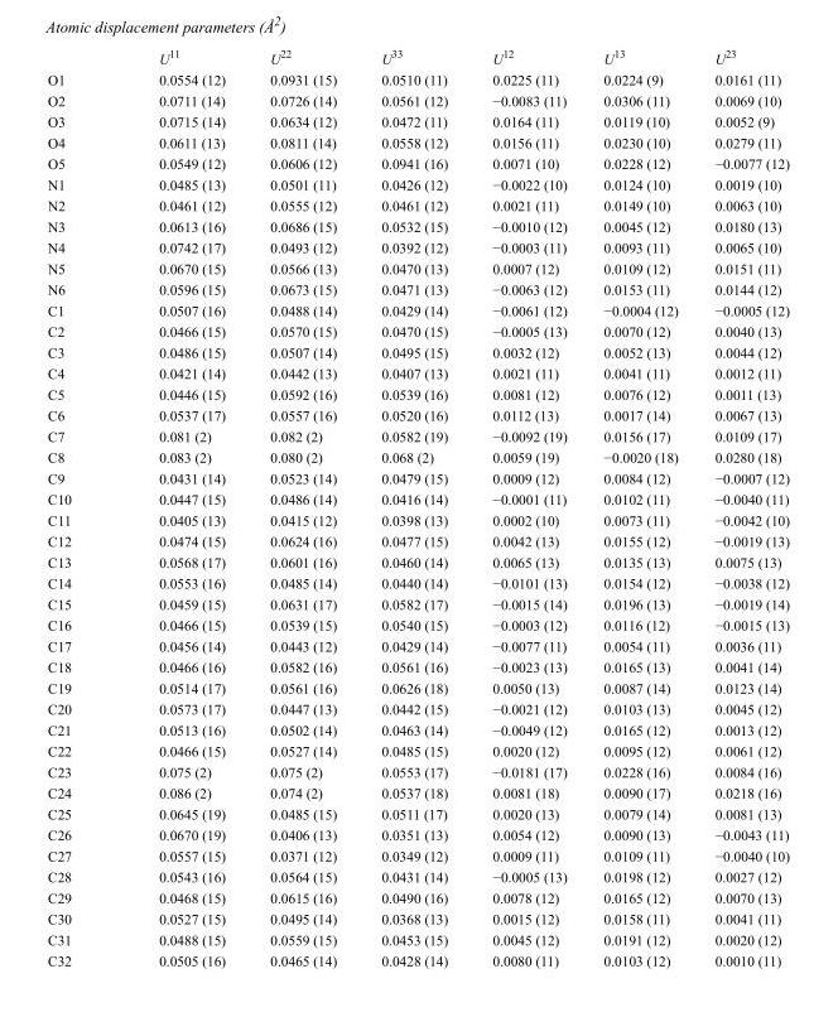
<table><thead><tr><td></td><td>U<sup>11</sup></td><td>U<sup>22</sup></td><td>U<sup>33</sup></td><td>U<sup>12</sup></td><td>U<sup>13</sup></td><td>U<sup>23</sup></td></tr></thead><tbody><tr><td>O1</td><td>0.0554 (12)</td><td>0.0931 (15)</td><td>0.0510 (11)</td><td>0.0225 (11)</td><td>0.0224 (9)</td><td>0.0161 (11)</td></tr><tr><td>O2</td><td>0.0711 (14)</td><td>0.0726 (14)</td><td>0.0561 (12)</td><td>−0.0083 (11)</td><td>0.0306 (11)</td><td>0.0069 (10)</td></tr><tr><td>O3</td><td>0.0715 (14)</td><td>0.0634 (12)</td><td>0.0472 (11)</td><td>0.0164 (11)</td><td>0.0119 (10)</td><td>0.0052 (9)</td></tr><tr><td>O4</td><td>0.0611 (13)</td><td>0.0811 (14)</td><td>0.0558 (12)</td><td>0.0156 (11)</td><td>0.0230 (10)</td><td>0.0279 (11)</td></tr><tr><td>O5</td><td>0.0549 (12)</td><td>0.0606 (12)</td><td>0.0941 (16)</td><td>0.0071 (10)</td><td>0.0228 (12)</td><td>−0.0077 (12)</td></tr><tr><td>N1</td><td>0.0485 (13)</td><td>0.0501 (11)</td><td>0.0426 (12)</td><td>−0.0022 (10)</td><td>0.0124 (10)</td><td>0.0019 (10)</td></tr><tr><td>N2</td><td>0.0461 (12)</td><td>0.0555 (12)</td><td>0.0461 (12)</td><td>0.0021 (11)</td><td>0.0149 (10)</td><td>0.0063 (10)</td></tr><tr><td>N3</td><td>0.0613 (16)</td><td>0.0686 (15)</td><td>0.0532 (15)</td><td>−0.0010 (12)</td><td>0.0045 (12)</td><td>0.0180 (13)</td></tr><tr><td>N4</td><td>0.0742 (17)</td><td>0.0493 (12)</td><td>0.0392 (12)</td><td>−0.0003 (11)</td><td>0.0093 (11)</td><td>0.0065 (10)</td></tr><tr><td>N5</td><td>0.0670 (15)</td><td>0.0566 (13)</td><td>0.0470 (13)</td><td>0.0007 (12)</td><td>0.0109 (12)</td><td>0.0151 (11)</td></tr><tr><td>N6</td><td>0.0596 (15)</td><td>0.0673 (15)</td><td>0.0471 (13)</td><td>−0.0063 (12)</td><td>0.0153 (11)</td><td>0.0144 (12)</td></tr><tr><td>C1</td><td>0.0507 (16)</td><td>0.0488 (14)</td><td>0.0429 (14)</td><td>−0.0061 (12)</td><td>−0.0004 (12)</td><td>−0.0005 (12)</td></tr><tr><td>C2</td><td>0.0466 (15)</td><td>0.0570 (15)</td><td>0.0470 (15)</td><td>−0.0005 (13)</td><td>0.0070 (12)</td><td>0.0040 (13)</td></tr><tr><td>C3</td><td>0.0486 (15)</td><td>0.0507 (14)</td><td>0.0495 (15)</td><td>0.0032 (12)</td><td>0.0052 (13)</td><td>0.0044 (12)</td></tr><tr><td>C4</td><td>0.0421 (14)</td><td>0.0442 (13)</td><td>0.0407 (13)</td><td>0.0021 (11)</td><td>0.0041 (11)</td><td>0.0012 (11)</td></tr><tr><td>C5</td><td>0.0446 (15)</td><td>0.0592 (16)</td><td>0.0539 (16)</td><td>0.0081 (12)</td><td>0.0076 (12)</td><td>0.0011 (13)</td></tr><tr><td>C6</td><td>0.0537 (17)</td><td>0.0557 (16)</td><td>0.0520 (16)</td><td>0.0112 (13)</td><td>0.0017 (14)</td><td>0.0067 (13)</td></tr><tr><td>C7</td><td>0.081 (2)</td><td>0.082 (2)</td><td>0.0582 (19)</td><td>−0.0092 (19)</td><td>0.0156 (17)</td><td>0.0109 (17)</td></tr><tr><td>C8</td><td>0.083 (2)</td><td>0.080 (2)</td><td>0.068 (2)</td><td>0.0059 (19)</td><td>−0.0020 (18)</td><td>0.0280 (18)</td></tr><tr><td>C9</td><td>0.0431 (14)</td><td>0.0523 (14)</td><td>0.0479 (15)</td><td>0.0009 (12)</td><td>0.0084 (12)</td><td>−0.0007 (12)</td></tr><tr><td>C10</td><td>0.0447 (15)</td><td>0.0486 (14)</td><td>0.0416 (14)</td><td>−0.0001 (11)</td><td>0.0102 (11)</td><td>−0.0040 (11)</td></tr><tr><td>C11</td><td>0.0405 (13)</td><td>0.0415 (12)</td><td>0.0398 (13)</td><td>0.0002 (10)</td><td>0.0073 (11)</td><td>−0.0042 (10)</td></tr><tr><td>C12</td><td>0.0474 (15)</td><td>0.0624 (16)</td><td>0.0477 (15)</td><td>0.0042 (13)</td><td>0.0155 (12)</td><td>−0.0019 (13)</td></tr><tr><td>C13</td><td>0.0568 (17)</td><td>0.0601 (16)</td><td>0.0460 (14)</td><td>0.0065 (13)</td><td>0.0135 (13)</td><td>0.0075 (13)</td></tr><tr><td>C14</td><td>0.0553 (16)</td><td>0.0485 (14)</td><td>0.0440 (14)</td><td>−0.0101 (13)</td><td>0.0154 (12)</td><td>−0.0038 (12)</td></tr><tr><td>C15</td><td>0.0459 (15)</td><td>0.0631 (17)</td><td>0.0582 (17)</td><td>−0.0015 (14)</td><td>0.0196 (13)</td><td>−0.0019 (14)</td></tr><tr><td>C16</td><td>0.0466 (15)</td><td>0.0539 (15)</td><td>0.0540 (15)</td><td>−0.0003 (12)</td><td>0.0116 (12)</td><td>−0.0015 (13)</td></tr><tr><td>C17</td><td>0.0456 (14)</td><td>0.0443 (12)</td><td>0.0429 (14)</td><td>−0.0077 (11)</td><td>0.0054 (11)</td><td>0.0036 (11)</td></tr><tr><td>C18</td><td>0.0466 (16)</td><td>0.0582 (16)</td><td>0.0561 (16)</td><td>−0.0023 (13)</td><td>0.0165 (13)</td><td>0.0041 (14)</td></tr><tr><td>C19</td><td>0.0514 (17)</td><td>0.0561 (16)</td><td>0.0626 (18)</td><td>0.0050 (13)</td><td>0.0087 (14)</td><td>0.0123 (14)</td></tr><tr><td>C20</td><td>0.0573 (17)</td><td>0.0447 (13)</td><td>0.0442 (15)</td><td>−0.0021 (12)</td><td>0.0103 (13)</td><td>0.0045 (12)</td></tr><tr><td>C21</td><td>0.0513 (16)</td><td>0.0502 (14)</td><td>0.0463 (14)</td><td>−0.0049 (12)</td><td>0.0165 (12)</td><td>0.0013 (12)</td></tr><tr><td>C22</td><td>0.0466 (15)</td><td>0.0527 (14)</td><td>0.0485 (15)</td><td>0.0020 (12)</td><td>0.0095 (12)</td><td>0.0061 (12)</td></tr><tr><td>C23</td><td>0.075 (2)</td><td>0.075 (2)</td><td>0.0553 (17)</td><td>−0.0181 (17)</td><td>0.0228 (16)</td><td>0.0084 (16)</td></tr><tr><td>C24</td><td>0.086 (2)</td><td>0.074 (2)</td><td>0.0537 (18)</td><td>0.0081 (18)</td><td>0.0090 (17)</td><td>0.0218 (16)</td></tr><tr><td>C25</td><td>0.0645 (19)</td><td>0.0485 (15)</td><td>0.0511 (17)</td><td>0.0020 (13)</td><td>0.0079 (14)</td><td>0.0081 (13)</td></tr><tr><td>C26</td><td>0.0670 (19)</td><td>0.0406 (13)</td><td>0.0351 (13)</td><td>0.0054 (12)</td><td>0.0090 (13)</td><td>−0.0043 (11)</td></tr><tr><td>C27</td><td>0.0557 (15)</td><td>0.0371 (12)</td><td>0.0349 (12)</td><td>0.0009 (11)</td><td>0.0109 (11)</td><td>−0.0040 (10)</td></tr><tr><td>C28</td><td>0.0543 (16)</td><td>0.0564 (15)</td><td>0.0431 (14)</td><td>−0.0005 (13)</td><td>0.0198 (12)</td><td>0.0027 (12)</td></tr><tr><td>C29</td><td>0.0468 (15)</td><td>0.0615 (16)</td><td>0.0490 (16)</td><td>0.0078 (12)</td><td>0.0165 (12)</td><td>0.0070 (13)</td></tr><tr><td>C30</td><td>0.0527 (15)</td><td>0.0495 (14)</td><td>0.0368 (13)</td><td>0.0015 (12)</td><td>0.0158 (11)</td><td>0.0041 (11)</td></tr><tr><td>C31</td><td>0.0488 (15)</td><td>0.0559 (15)</td><td>0.0453 (15)</td><td>0.0045 (12)</td><td>0.0191 (12)</td><td>0.0020 (12)</td></tr><tr><td>C32</td><td>0.0505 (16)</td><td>0.0465 (14)</td><td>0.0428 (14)</td><td>0.0080 (11)</td><td>0.0103 (12)</td><td>0.0010 (11)</td></tr></tbody></table>